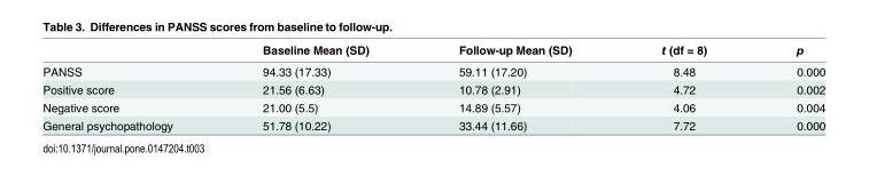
<table><thead><tr><td></td><td>Baseline Mean (SD)</td><td>Follow-up Mean (SD)</td><td>t (df = 8)</td><td>p</td></tr></thead><tbody><tr><td>PANSS</td><td>94.33 (17.33)</td><td>59.11 (17.20)</td><td>8.48</td><td>0.000</td></tr><tr><td>Positive score</td><td>21.56 (6.63)</td><td>10.78 (2.91)</td><td>4.72</td><td>0.002</td></tr><tr><td>Negative score</td><td>21.00 (5.5)</td><td>14.89 (5.57)</td><td>4.06</td><td>0.004</td></tr><tr><td>General psychopathology</td><td>51.78 (10.22)</td><td>33.44 (11.66)</td><td>7.72</td><td>0.000</td></tr></tbody></table>